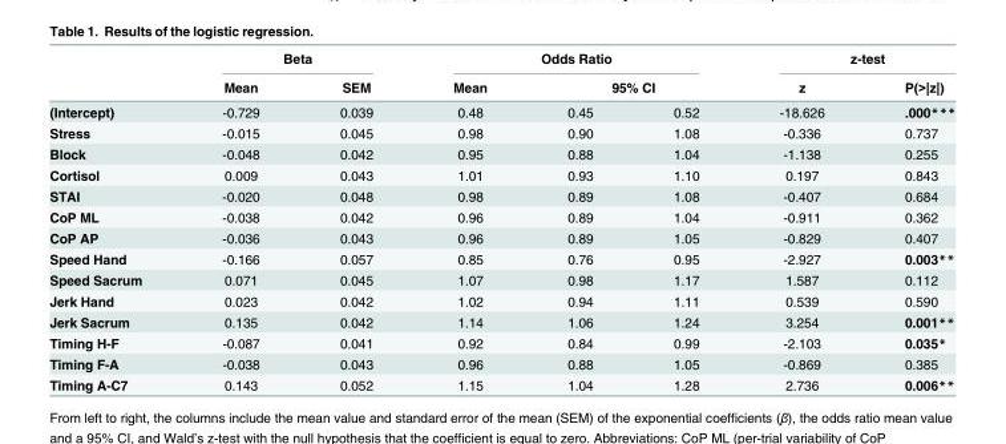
<table><thead><tr><td rowspan="3">(Intercept)</td><td colspan="2">Beta</td><td colspan="3">Odds Ratio</td><td colspan="2">z-test</td></tr><tr><td rowspan="2">Mean -0.729</td><td rowspan="2">SEM 0.039</td><td rowspan="2">Mean 0.48</td><td colspan="2">95% CI</td><td rowspan="2">z -18.626</td><td rowspan="2">P(&gt;|z|) .000***</td></tr><tr><td>0.45</td><td>0.52</td></tr></thead><tbody><tr><td>Stress</td><td>-0.015</td><td>0.045</td><td>0.98</td><td>0.90</td><td>1.08</td><td>-0.336</td><td>0.737</td></tr><tr><td>Block</td><td>-0.048</td><td>0.042</td><td>0.95</td><td>0.88</td><td>1.04</td><td>-1.138</td><td>0.255</td></tr><tr><td>Cortisol</td><td>0.009</td><td>0.043</td><td>1.01</td><td>0.93</td><td>1.10</td><td>0.197</td><td>0.843</td></tr><tr><td>STAI</td><td>-0.020</td><td>0.048</td><td>0.98</td><td>0.89</td><td>1.08</td><td>-0.407</td><td>0.684</td></tr><tr><td>CoP ML</td><td>-0.038</td><td>0.042</td><td>0.96</td><td>0.89</td><td>1.04</td><td>-0.911</td><td>0.362</td></tr><tr><td>CoP AP</td><td>-0.036</td><td>0.043</td><td>0.96</td><td>0.89</td><td>1.05</td><td>-0.829</td><td>0.407</td></tr><tr><td>Speed Hand</td><td>-0.166</td><td>0.057</td><td>0.85</td><td>0.76</td><td>0.95</td><td>-2.927</td><td>0.003**</td></tr><tr><td>Speed Sacrum</td><td>0.071</td><td>0.045</td><td>1.07</td><td>0.98</td><td>1.17</td><td>1.587</td><td>0.112</td></tr><tr><td>Jerk Hand</td><td>0.023</td><td>0.042</td><td>1.02</td><td>0.94</td><td>1.11</td><td>0.539</td><td>0.590</td></tr><tr><td>Jerk Sacrum</td><td>0.135</td><td>0.042</td><td>1.14</td><td>1.06</td><td>1.24</td><td>3.254</td><td>0.001**</td></tr><tr><td>Timing H-F</td><td>-0.087</td><td>0.041</td><td>0.92</td><td>0.84</td><td>0.99</td><td>-2.103</td><td>0.035*</td></tr><tr><td>Timing F-A</td><td>-0.038</td><td>0.043</td><td>0.96</td><td>0.88</td><td>1.05</td><td>-0.869</td><td>0.385</td></tr><tr><td>Timing A-C7</td><td>0.143</td><td>0.052</td><td>1.15</td><td>1.04</td><td>1.28</td><td>2.736</td><td>0.006**</td></tr></tbody></table>